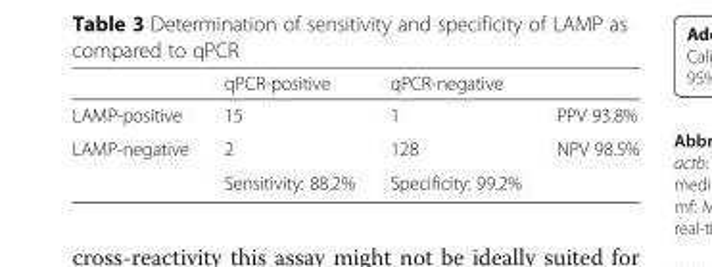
<table><thead><tr><td></td><td>qPCR-positive</td><td>qPCR-negative</td><td></td></tr></thead><tbody><tr><td>LAMP-positive</td><td>15</td><td>1</td><td>PPV 93.8%</td></tr><tr><td rowspan="2">LAMP-negative</td><td>2</td><td>128</td><td>NPV 98.5%</td></tr><tr><td>Sensitivity: 88.2%</td><td>Specificity: 99.2%</td><td></td></tr></tbody></table>